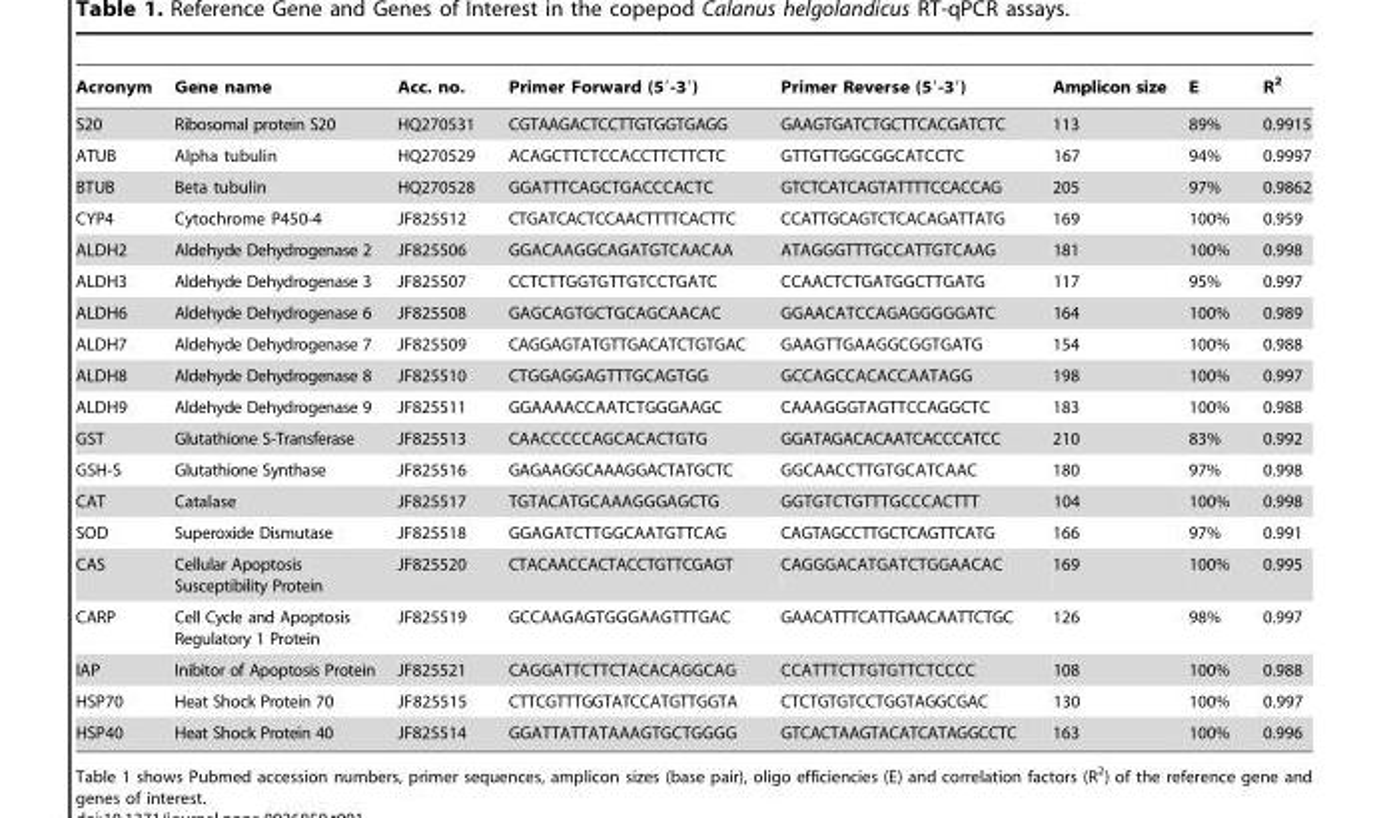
<table><thead><tr><td>Acronym</td><td>Gene name</td><td>Acc. no.</td><td>Primer Forward (5′-3′)</td><td>Primer Reverse (5′-3′)</td><td>Amplicon size</td><td>E</td><td>R<sup>2</sup></td></tr></thead><tbody><tr><td>S20</td><td>Ribosomal protein S20</td><td>HQ270531</td><td>CGTAAGACTCCTTGTGGTGAGG</td><td>GAAGTGATCTGCTTCACGATCTC</td><td>113</td><td>89%</td><td>0.9915</td></tr><tr><td>ATUB</td><td>Alpha tubulin</td><td>HQ270529</td><td>ACAGCTTCTCCACCTTCTTCTC</td><td>GTTGTTGGCGGCATCCTC</td><td>167</td><td>94%</td><td>0.9997</td></tr><tr><td>BTUB</td><td>Beta tubulin</td><td>HQ270528</td><td>GGATTTCAGCTGACCCACTC</td><td>GTCTCATCAGTATTTTCCACCAG</td><td>205</td><td>97%</td><td>0.9862</td></tr><tr><td>CYP4</td><td>Cytochrome P450-4</td><td>JF825512</td><td>CTGATCACTCCAACTTTTCACTTC</td><td>CCATTGCAGTCTCACAGATTATG</td><td>169</td><td>100%</td><td>0.959</td></tr><tr><td>ALDH2</td><td>Aldehyde Dehydrogenase 2</td><td>JF825506</td><td>GGACAAGGCAGATGTCAACAA</td><td>ATAGGGTTTGCCATTGTCAAG</td><td>181</td><td>100%</td><td>0.998</td></tr><tr><td>ALDH3</td><td>Aldehyde Dehydrogenase 3</td><td>JF825507</td><td>CCTCTTGGTGTTGTCCTGATC</td><td>CCAACTCTGATGGCTTGATG</td><td>117</td><td>95%</td><td>0.997</td></tr><tr><td>ALDH6</td><td>Aldehyde Dehydrogenase 6</td><td>JF825508</td><td>GAGCAGTGCTGCAGCAACAC</td><td>GGAACATCCAGAGGGGGATC</td><td>164</td><td>100%</td><td>0.989</td></tr><tr><td>ALDH7</td><td>Aldehyde Dehydrogenase 7</td><td>JF825509</td><td>CAGGAGTATGTTGACATCTGTGAC</td><td>GAAGTTGAAGGCGGTGATG</td><td>154</td><td>100%</td><td>0.988</td></tr><tr><td>ALDH8</td><td>Aldehyde Dehydrogenase 8</td><td>JF825510</td><td>CTGGAGGAGTTTGCAGTGG</td><td>GCCAGCCACACCAATAGG</td><td>198</td><td>100%</td><td>0.997</td></tr><tr><td>ALDH9</td><td>Aldehyde Dehydrogenase 9</td><td>JF825511</td><td>GGAAAACCAATCTGGGAAGC</td><td>CAAAGGGTAGTTCCAGGCTC</td><td>183</td><td>100%</td><td>0.988</td></tr><tr><td>GST</td><td>Glutathione S-Transferase</td><td>JF825513</td><td>CAACCCCCAGCACACTGTG</td><td>GGATAGACACAATCACCCATCC</td><td>210</td><td>83%</td><td>0.992</td></tr><tr><td>GSH-S</td><td>Glutathione Synthase</td><td>JF825516</td><td>GAGAAGGCAAAGGACTATGCTC</td><td>GGCAACCTTGTGCATCAAC</td><td>180</td><td>97%</td><td>0.998</td></tr><tr><td>CAT</td><td>Catalase</td><td>JF825517</td><td>TGTACATGCAAAGGGAGCTG</td><td>GGTGTCTGTTTGCCCACTTT</td><td>104</td><td>100%</td><td>0.998</td></tr><tr><td>SOD</td><td>Superoxide Dismutase</td><td>JF825518</td><td>GGAGATCTTGGCAATGTTCAG</td><td>CAGTAGCCTTGCTCAGTTCATG</td><td>166</td><td>97%</td><td>0.991</td></tr><tr><td>CAS</td><td>Cellular Apoptosis Susceptibility Protein</td><td>JF825520</td><td>CTACAACCACTACCTGTTCGAGT</td><td>CAGGGACATGATCTGGAACAC</td><td>169</td><td>100%</td><td>0.995</td></tr><tr><td>CARP</td><td>Cell Cycle and Apoptosis Regulatory 1 Protein</td><td>JF825519</td><td>GCCAAGAGTGGGAAGTTTGAC</td><td>GAACATTTCATTGAACAATTCTGC</td><td>126</td><td>98%</td><td>0.997</td></tr><tr><td>IAP</td><td>Inibitor of Apoptosis Protein</td><td>JF825521</td><td>CAGGATTCTTCTACACAGGCAG</td><td>CCATTTCTTGTGTTCTCCCC</td><td>108</td><td>100%</td><td>0.988</td></tr><tr><td>HSP70</td><td>Heat Shock Protein 70</td><td>JF825515</td><td>CTTCGTTTGGTATCCATGTTGGTA</td><td>CTCTGTGTCCTGGTAGGCGAC</td><td>130</td><td>100%</td><td>0.997</td></tr><tr><td>HSP40</td><td>Heat Shock Protein 40</td><td>JF825514</td><td>GGATTATTATAAAGTGCTGGGG</td><td>GTCACTAAGTACATCATAGGCCTC</td><td>163</td><td>100%</td><td>0.996</td></tr></tbody></table>